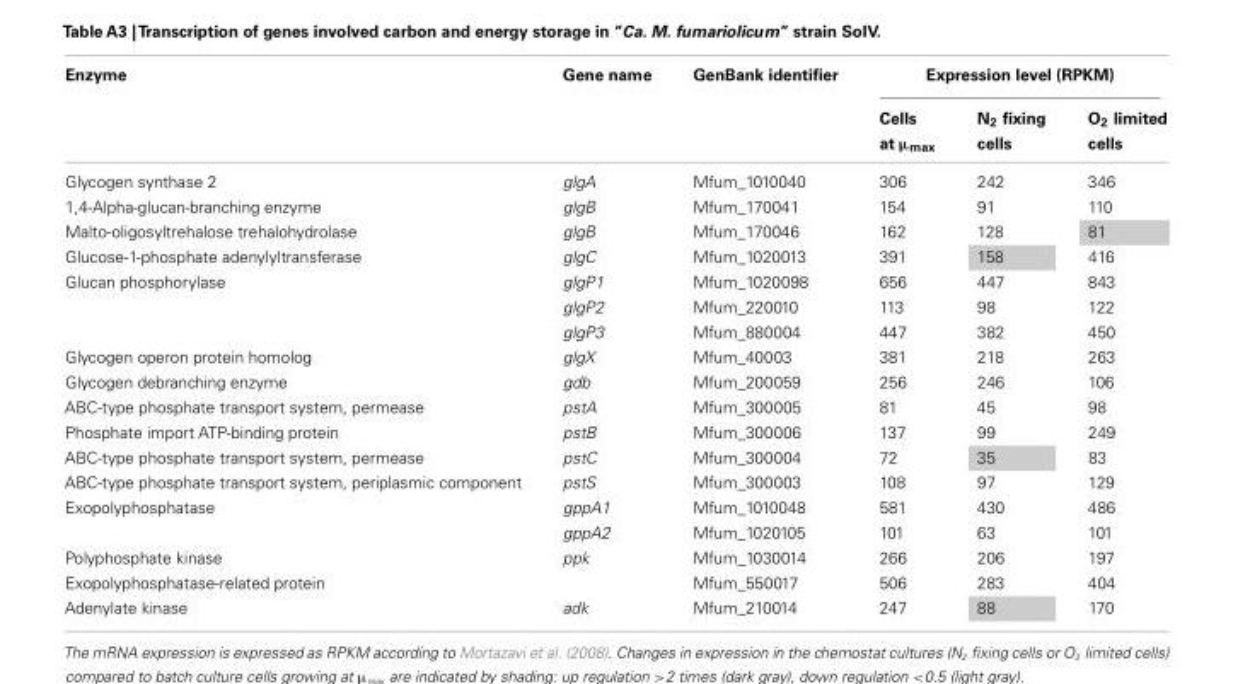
<table><thead><tr><td rowspan="2">Enzyme</td><td rowspan="2">Gene name</td><td rowspan="2">GenBank identifier</td><td colspan="3">Expression level (RPKM)</td></tr><tr><td>Cells at µ<sub>max</sub></td><td>N<sub>2</sub> fixing cells</td><td>O<sub>2</sub> limited cells</td></tr></thead><tbody><tr><td>Glycogen synthase 2</td><td>glgA</td><td>Mfum_1010040</td><td>306</td><td>242</td><td>346</td></tr><tr><td>1,4-Alpha-glucan-branching enzyme</td><td>glgB</td><td>Mfum_170041</td><td>154</td><td>91</td><td>110</td></tr><tr><td>Malto-oligosyltrehalose trehalohydrolase</td><td>glgB</td><td>Mfum_170046</td><td>162</td><td>128</td><td>81</td></tr><tr><td>Glucose-1-phosphate adenylyltransferase</td><td>glgC</td><td>Mfum_1020013</td><td>391</td><td>158</td><td>416</td></tr><tr><td rowspan="3">Glucan phosphorylase</td><td>glgP1</td><td>Mfum_1020098</td><td>656</td><td>447</td><td>843</td></tr><tr><td>glgP2</td><td>Mfum_220010</td><td>113</td><td>98</td><td>122</td></tr><tr><td>glgP3</td><td>Mfum_880004</td><td>447</td><td>382</td><td>450</td></tr><tr><td>Glycogen operon protein homolog</td><td>glgX</td><td>Mfum_40003</td><td>381</td><td>218</td><td>263</td></tr><tr><td>Glycogen debranching enzyme</td><td>gdb</td><td>Mfum_200059</td><td>256</td><td>246</td><td>106</td></tr><tr><td>ABC-type phosphate transport system, permease</td><td>pstA</td><td>Mfum_300005</td><td>81</td><td>45</td><td>98</td></tr><tr><td>Phosphate import ATP-binding protein</td><td>pstB</td><td>Mfum_300006</td><td>137</td><td>99</td><td>249</td></tr><tr><td>ABC-type phosphate transport system, permease</td><td>pstC</td><td>Mfum_300004</td><td>72</td><td>35</td><td>83</td></tr><tr><td>ABC-type phosphate transport system, periplasmic component</td><td>pstS</td><td>Mfum_300003</td><td>108</td><td>97</td><td>129</td></tr><tr><td rowspan="2">Exopolyphosphatase</td><td>gppA1</td><td>Mfum_1010048</td><td>581</td><td>430</td><td>486</td></tr><tr><td>gppA2</td><td>Mfum_1020105</td><td>101</td><td>63</td><td>101</td></tr><tr><td>Polyphosphate kinase</td><td>ppk</td><td>Mfum_1030014</td><td>266</td><td>206</td><td>197</td></tr><tr><td>Exopolyphosphatase-related protein</td><td></td><td>Mfum_550017</td><td>506</td><td>283</td><td>404</td></tr><tr><td>Adenylate kinase</td><td>adk</td><td>Mfum_210014</td><td>247</td><td>88</td><td>170</td></tr></tbody></table>